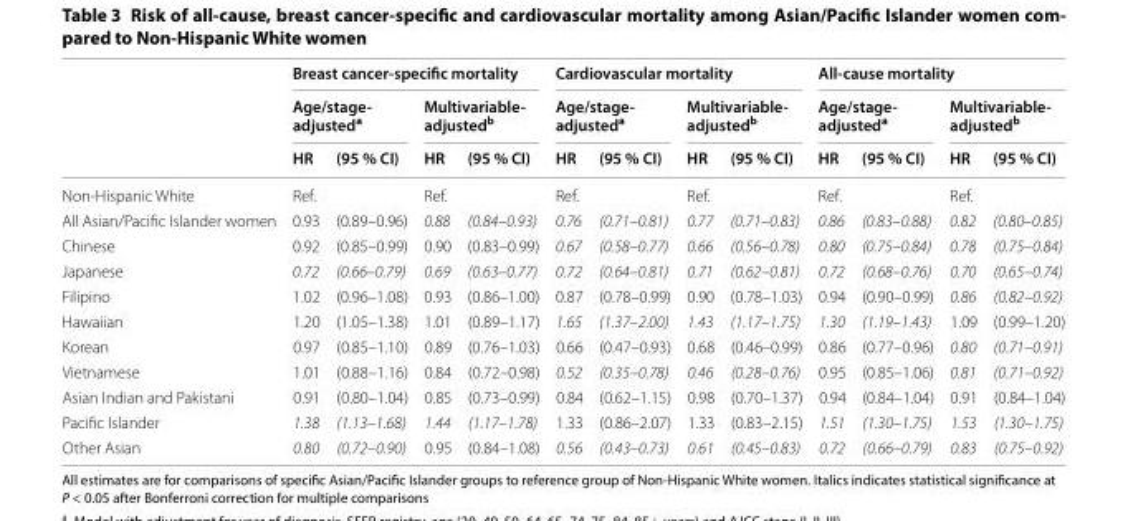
<table><thead><tr><td rowspan="3"></td><td colspan="4">Breast cancer-specific mortality</td><td colspan="4">Cardiovascular mortality</td><td colspan="4">All-cause mortality</td></tr><tr><td colspan="2">Age/stage- adjusted<sup>a</sup></td><td colspan="2">Multivariable- adjusted<sup>b</sup></td><td colspan="2">Age/stage- adjusted<sup>a</sup></td><td colspan="2">Multivariable- adjusted<sup>b</sup></td><td colspan="2">Age/stage- adjusted<sup>a</sup></td><td colspan="2">Multivariable- adjusted<sup>b</sup></td></tr><tr><td>HR</td><td>(95 % CI)</td><td>HR</td><td>(95 % CI)</td><td>HR</td><td>(95 % CI)</td><td>HR</td><td>(95 % CI)</td><td>HR</td><td>(95 % CI)</td><td>HR</td><td>(95 % CI)</td></tr></thead><tbody><tr><td>Non-Hispanic White</td><td colspan="2">Ref.</td><td colspan="2">Ref.</td><td colspan="2">Ref.</td><td colspan="2">Ref.</td><td colspan="2">Ref.</td><td colspan="2">Ref.</td></tr><tr><td>All Asian/Pacific Islander women</td><td>0.93</td><td>(0.89–0.96)</td><td>0.88</td><td>(0.84–0.93)</td><td>0.76</td><td>(0.71–0.81)</td><td>0.77</td><td>(0.71–0.83)</td><td>0.86</td><td>(0.83–0.88)</td><td>0.82</td><td>(0.80–0.85)</td></tr><tr><td>Chinese</td><td>0.92</td><td>(0.85–0.99)</td><td>0.90</td><td>(0.83–0.99)</td><td>0.67</td><td>(0.58–0.77)</td><td>0.66</td><td>(0.56–0.78)</td><td>0.80</td><td>(0.75–0.84)</td><td>0.78</td><td>(0.75–0.84)</td></tr><tr><td>Japanese</td><td>0.72</td><td>(0.66–0.79)</td><td>0.69</td><td>(0.63–0.77)</td><td>0.72</td><td>(0.64–0.81)</td><td>0.71</td><td>(0.62–0.81)</td><td>0.72</td><td>(0.68–0.76)</td><td>0.70</td><td>(0.65–0.74)</td></tr><tr><td>Filipino</td><td>1.02</td><td>(0.96–1.08)</td><td>0.93</td><td>(0.86–1.00)</td><td>0.87</td><td>(0.78–0.99)</td><td>0.90</td><td>(0.78–1.03)</td><td>0.94</td><td>(0.90–0.99)</td><td>0.86</td><td>(0.82–0.92)</td></tr><tr><td>Hawaiian</td><td>1.20</td><td>(1.05–1.38)</td><td>1.01</td><td>(0.89–1.17)</td><td>1.65</td><td>(1.37–2.00)</td><td>1.43</td><td>(1.17–1.75)</td><td>1.30</td><td>(1.19–1.43)</td><td>1.09</td><td>(0.99–1.20)</td></tr><tr><td>Korean</td><td>0.97</td><td>(0.85–1.10)</td><td>0.89</td><td>(0.76–1.03)</td><td>0.66</td><td>(0.47–0.93)</td><td>0.68</td><td>(0.46–0.99)</td><td>0.86</td><td>(0.77–0.96)</td><td>0.80</td><td>(0.71–0.91)</td></tr><tr><td>Vietnamese</td><td>1.01</td><td>(0.88–1.16)</td><td>0.84</td><td>(0.72–0.98)</td><td>0.52</td><td>(0.35–0.78)</td><td>0.46</td><td>(0.28–0.76)</td><td>0.95</td><td>(0.85–1.06)</td><td>0.81</td><td>(0.71–0.92)</td></tr><tr><td>Asian Indian and Pakistani</td><td>0.91</td><td>(0.80–1.04)</td><td>0.85</td><td>(0.73–0.99)</td><td>0.84</td><td>(0.62–1.15)</td><td>0.98</td><td>(0.70–1.37)</td><td>0.94</td><td>(0.84–1.04)</td><td>0.91</td><td>(0.84–1.04)</td></tr><tr><td>Pacific Islander</td><td>1.38</td><td>(1.13–1.68)</td><td>1.44</td><td>(1.17–1.78)</td><td>1.33</td><td>(0.86–2.07)</td><td>1.33</td><td>(0.83–2.15)</td><td>1.51</td><td>(1.30–1.75)</td><td>1.53</td><td>(1.30–1.75)</td></tr><tr><td>Other Asian</td><td>0.80</td><td>(0.72–0.90)</td><td>0.95</td><td>(0.84–1.08)</td><td>0.56</td><td>(0.43–0.73)</td><td>0.61</td><td>(0.45–0.83)</td><td>0.72</td><td>(0.66–0.79)</td><td>0.83</td><td>(0.75–0.92)</td></tr></tbody></table>